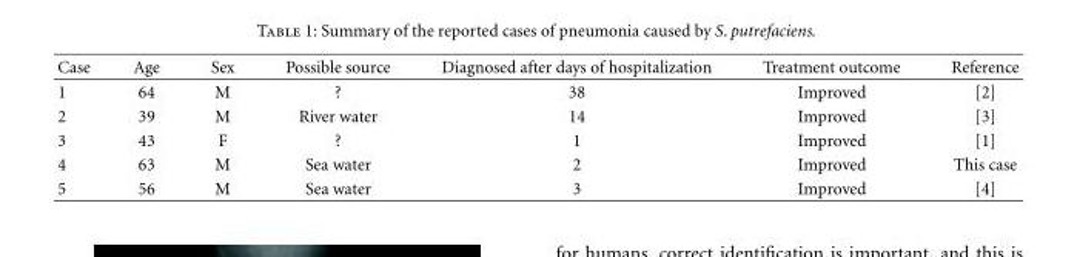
<table><thead><tr><td>Case</td><td>Age</td><td>Sex</td><td>Possible source</td><td>Diagnosed after days of hospitalization</td><td>Treatment outcome</td><td>Reference</td></tr></thead><tbody><tr><td>1</td><td>64</td><td>M</td><td>?</td><td>38</td><td>Improved</td><td>[2]</td></tr><tr><td>2</td><td>39</td><td>M</td><td>River water</td><td>14</td><td>Improved</td><td>[3]</td></tr><tr><td>3</td><td>43</td><td>F</td><td>?</td><td>1</td><td>Improved</td><td>[1]</td></tr><tr><td>4</td><td>63</td><td>M</td><td>Sea water</td><td>2</td><td>Improved</td><td>This case</td></tr><tr><td>5</td><td>56</td><td>M</td><td>Sea water</td><td>3</td><td>Improved</td><td>[4]</td></tr></tbody></table>